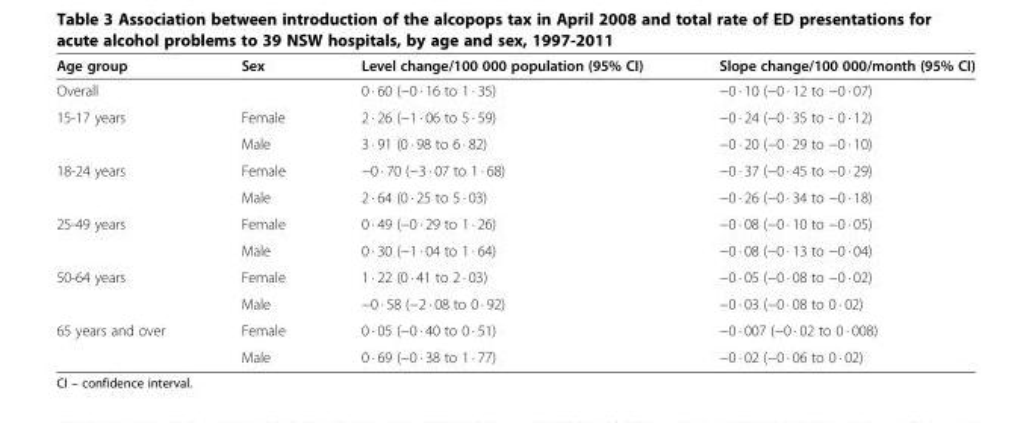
<table><thead><tr><td>Age group</td><td>Sex</td><td>Level change/100 000 population (95% CI)</td><td>Slope change/100 000/month (95% CI)</td></tr></thead><tbody><tr><td>Overall</td><td></td><td>0 · 60 (−0 · 16 to 1 · 35)</td><td>−0 · 10 (−0 · 12 to −0 · 07)</td></tr><tr><td rowspan="2">15-17 years</td><td>Female</td><td>2 · 26 (−1 · 06 to 5 · 59)</td><td>−0 · 24 (−0 · 35 to - 0 · 12)</td></tr><tr><td>Male</td><td>3 · 91 (0 · 98 to 6 · 82)</td><td>−0 · 20 (−0 · 29 to −0 · 10)</td></tr><tr><td rowspan="2">18-24 years</td><td>Female</td><td>−0 · 70 (−3 · 07 to 1 · 68)</td><td>−0 · 37 (−0 · 45 to −0 · 29)</td></tr><tr><td>Male</td><td>2 · 64 (0 · 25 to 5 · 03)</td><td>−0 · 26 (−0 · 34 to −0 · 18)</td></tr><tr><td rowspan="2">25-49 years</td><td>Female</td><td>0 · 49 (−0 · 29 to 1 · 26)</td><td>−0 · 08 (−0 · 10 to −0 · 05)</td></tr><tr><td>Male</td><td>0 · 30 (−1 · 04 to 1 · 64)</td><td>−0 · 08 (−0 · 13 to −0 · 04)</td></tr><tr><td rowspan="2">50-64 years</td><td>Female</td><td>1 · 22 (0 · 41 to 2 · 03)</td><td>−0 · 05 (−0 · 08 to −0 · 02)</td></tr><tr><td>Male</td><td>−0 · 58 (−2 · 08 to 0 · 92)</td><td>−0 · 03 (−0 · 08 to 0 · 02)</td></tr><tr><td rowspan="2">65 years and over</td><td>Female</td><td>0 · 05 (−0 · 40 to 0 · 51)</td><td>−0 · 007 (−0 · 02 to 0 · 008)</td></tr><tr><td>Male</td><td>0 · 69 (−0 · 38 to 1 · 77)</td><td>−0 · 02 (−0 · 06 to 0 · 02)</td></tr></tbody></table>